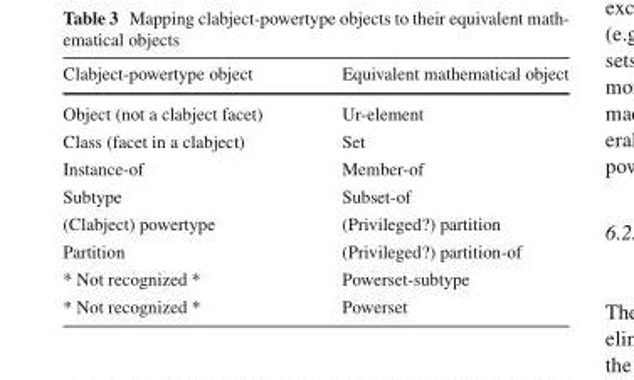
<table><thead><tr><td>Clabject-powertype object</td><td>Equivalent mathematical object</td></tr></thead><tbody><tr><td>Object (not a clabject facet)</td><td>Ur-element</td></tr><tr><td>Class (facet in a clabject)</td><td>Set</td></tr><tr><td>Instance-of</td><td>Member-of</td></tr><tr><td>Subtype</td><td>Subset-of</td></tr><tr><td>(Clabject) powertype</td><td>(Privileged?) partition</td></tr><tr><td>Partition</td><td>(Privileged?) partition-of</td></tr><tr><td>* Not recognized *</td><td>Powerset-subtype</td></tr><tr><td>* Not recognized *</td><td>Powerset</td></tr></tbody></table>